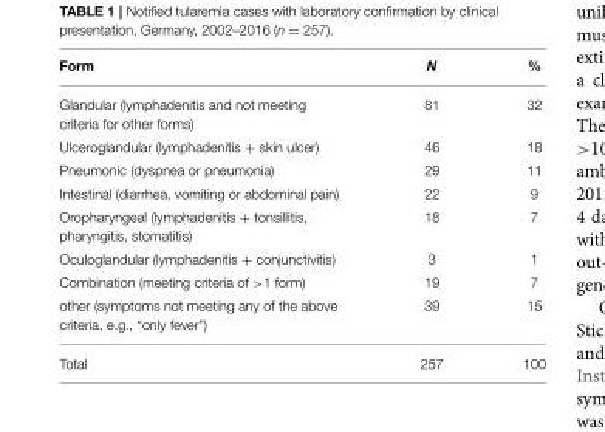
<table><thead><tr><td>Form</td><td>N</td><td>%</td></tr></thead><tbody><tr><td>Glandular (lymphadenitis and not meeting criteria for other forms)</td><td>81</td><td>32</td></tr><tr><td>Ulceroglandular (lymphadenitis + skin ulcer)</td><td>46</td><td>18</td></tr><tr><td>Pneumonic (dyspnea or pneumonia)</td><td>29</td><td>11</td></tr><tr><td>Intestinal (diarrhea, vomiting or abdominal pain)</td><td>22</td><td>9</td></tr><tr><td>Oropharyngeal (lymphadenitis + tonsillitis, pharyngitis, stomatitis)</td><td>18</td><td>7</td></tr><tr><td>Oculoglandular (lymphadenitis + conjunctivitis)</td><td>3</td><td>1</td></tr><tr><td>Combination (meeting criteria of &gt;1 form)</td><td>19</td><td>7</td></tr><tr><td>other (symptoms not meeting any of the above criteria, e.g., “only fever”)</td><td>39</td><td>15</td></tr><tr><td>Total</td><td>257</td><td>100</td></tr></tbody></table>